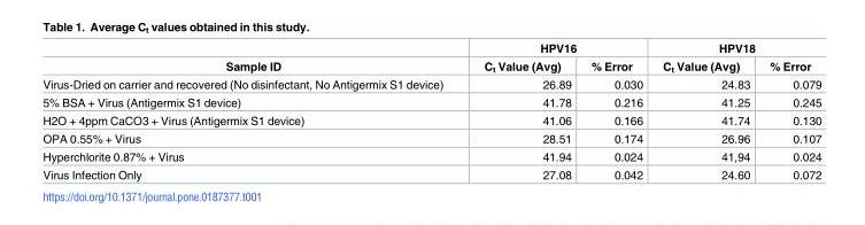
<table><thead><tr><td rowspan="2">Sample ID</td><td colspan="2">HPV16</td><td colspan="2">HPV18</td></tr><tr><td>C<sub>t</sub> Value (Avg)</td><td>% Error</td><td>C<sub>t</sub> Value (Avg)</td><td>% Error</td></tr></thead><tbody><tr><td>Virus-Dried on carrier and recovered (No disinfectant, No Antigermix S1 device)</td><td>26.89</td><td>0.030</td><td>24.83</td><td>0.079</td></tr><tr><td>5% BSA + Virus (Antigermix S1 device)</td><td>41.78</td><td>0.216</td><td>41.25</td><td>0.245</td></tr><tr><td>H2O + 4ppm CaCO3 + Virus (Antigermix S1 device)</td><td>41.06</td><td>0.166</td><td>41.74</td><td>0.130</td></tr><tr><td>OPA 0.55% + Virus</td><td>28.51</td><td>0.174</td><td>26.96</td><td>0.107</td></tr><tr><td>Hyperchlorite 0.87% + Virus</td><td>41.94</td><td>0.024</td><td>41,94</td><td>0.024</td></tr><tr><td>Virus Infection Only</td><td>27.08</td><td>0.042</td><td>24.60</td><td>0.072</td></tr></tbody></table>